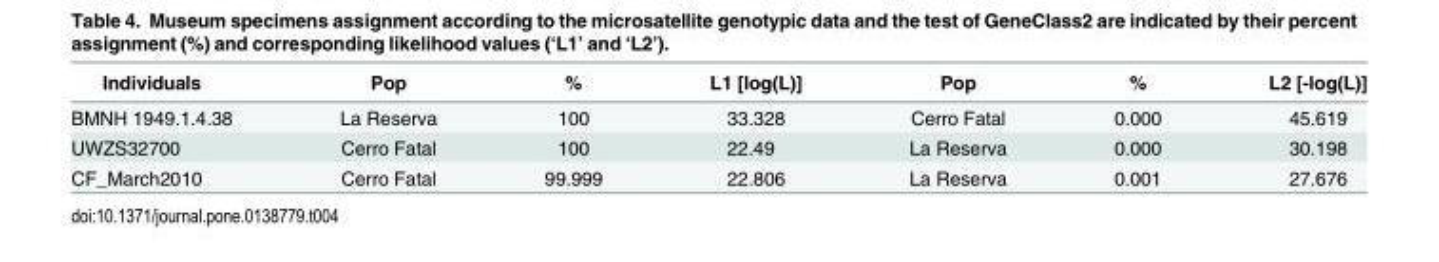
<table><thead><tr><td>Individuals</td><td>Pop</td><td>%</td><td>L1 [log(L)]</td><td>Pop</td><td>%</td><td>L2 [-log(L)]</td></tr></thead><tbody><tr><td>BMNH 1949.1.4.38</td><td>La Reserva</td><td>100</td><td>33.328</td><td>Cerro Fatal</td><td>0.000</td><td>45.619</td></tr><tr><td>UWZS32700</td><td>Cerro Fatal</td><td>100</td><td>22.49</td><td>La Reserva</td><td>0.000</td><td>30.198</td></tr><tr><td>CF_March2010</td><td>Cerro Fatal</td><td>99.999</td><td>22.806</td><td>La Reserva</td><td>0.001</td><td>27.676</td></tr></tbody></table>